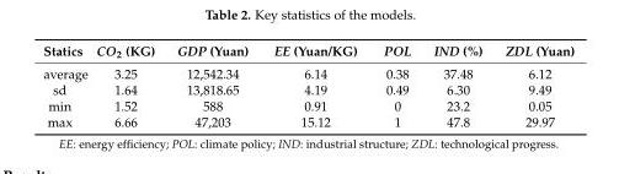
<table><thead><tr><td>Statics</td><td>CO<sub>2</sub> (KG)</td><td>GDP (Yuan)</td><td>EE (Yuan/KG)</td><td>POL</td><td>IND (%)</td><td>ZDL (Yuan)</td></tr></thead><tbody><tr><td>average</td><td>3.25</td><td>12,542.34</td><td>6.14</td><td>0.38</td><td>37.48</td><td>6.12</td></tr><tr><td>sd</td><td>1.64</td><td>13,818.65</td><td>4.19</td><td>0.49</td><td>6.30</td><td>9.49</td></tr><tr><td>min</td><td>1.52</td><td>588</td><td>0.91</td><td>0</td><td>23.2</td><td>0.05</td></tr><tr><td>max</td><td>6.66</td><td>47,203</td><td>15.12</td><td>1</td><td>47.8</td><td>29.97</td></tr></tbody></table>